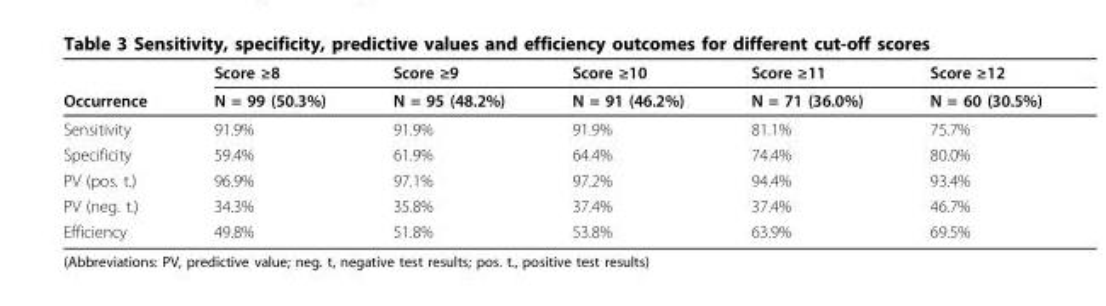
<table><thead><tr><td rowspan="2">Occurrence</td><td rowspan="2">Score ≥8 N = 99 (50.3%)</td><td rowspan="2">Score ≥9 N = 95 (48.2%)</td><td rowspan="2">Score ≥10 N = 91 (46.2%)</td><td rowspan="2">Score ≥11 N = 71 (36.0%)</td><td rowspan="2">Score ≥12 N = 60 (30.5%)</td></tr><tr></tr></thead><tbody><tr><td>Sensitivity</td><td>91.9%</td><td>91.9%</td><td>91.9%</td><td>81.1%</td><td>75.7%</td></tr><tr><td>Specificity</td><td>59.4%</td><td>61.9%</td><td>64.4%</td><td>74.4%</td><td>80.0%</td></tr><tr><td>PV (pos. t.)</td><td>96.9%</td><td>97.1%</td><td>97.2%</td><td>94.4%</td><td>93.4%</td></tr><tr><td>PV (neg. t.)</td><td>34.3%</td><td>35.8%</td><td>37.4%</td><td>37.4%</td><td>46.7%</td></tr><tr><td>Efficiency</td><td>49.8%</td><td>51.8%</td><td>53.8%</td><td>63.9%</td><td>69.5%</td></tr></tbody></table>